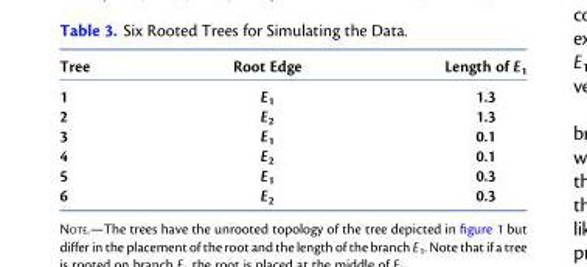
<table><thead><tr><td>Tree</td><td>Root Edge</td><td>Length of E<sub>1</sub></td></tr></thead><tbody><tr><td>1</td><td>E<sub>1</sub></td><td>1.3</td></tr><tr><td>2</td><td>E<sub>2</sub></td><td>1.3</td></tr><tr><td>3</td><td>E<sub>1</sub></td><td>0.1</td></tr><tr><td>4</td><td>E<sub>2</sub></td><td>0.1</td></tr><tr><td>5</td><td>E<sub>1</sub></td><td>0.3</td></tr><tr><td>6</td><td>E<sub>2</sub></td><td>0.3</td></tr></tbody></table>